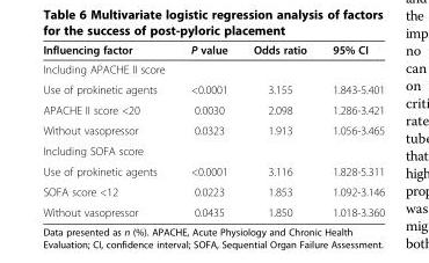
<table><thead><tr><td>Influencing factor</td><td>P value</td><td>Odds ratio</td><td>95% CI</td></tr></thead><tbody><tr><td colspan="4">Including APACHE II score</td></tr><tr><td>Use of prokinetic agents</td><td>&lt;0.0001</td><td>3.155</td><td>1.843-5.401</td></tr><tr><td>APACHE II score &lt;20</td><td>0.0030</td><td>2.098</td><td>1.286-3.421</td></tr><tr><td>Without vasopressor</td><td>0.0323</td><td>1.913</td><td>1.056-3.465</td></tr><tr><td colspan="4">Including SOFA score</td></tr><tr><td>Use of prokinetic agents</td><td>&lt;0.0001</td><td>3.116</td><td>1.828-5.311</td></tr><tr><td>SOFA score &lt;12</td><td>0.0223</td><td>1.853</td><td>1.092-3.146</td></tr><tr><td>Without vasopressor</td><td>0.0435</td><td>1.850</td><td>1.018-3.360</td></tr></tbody></table>